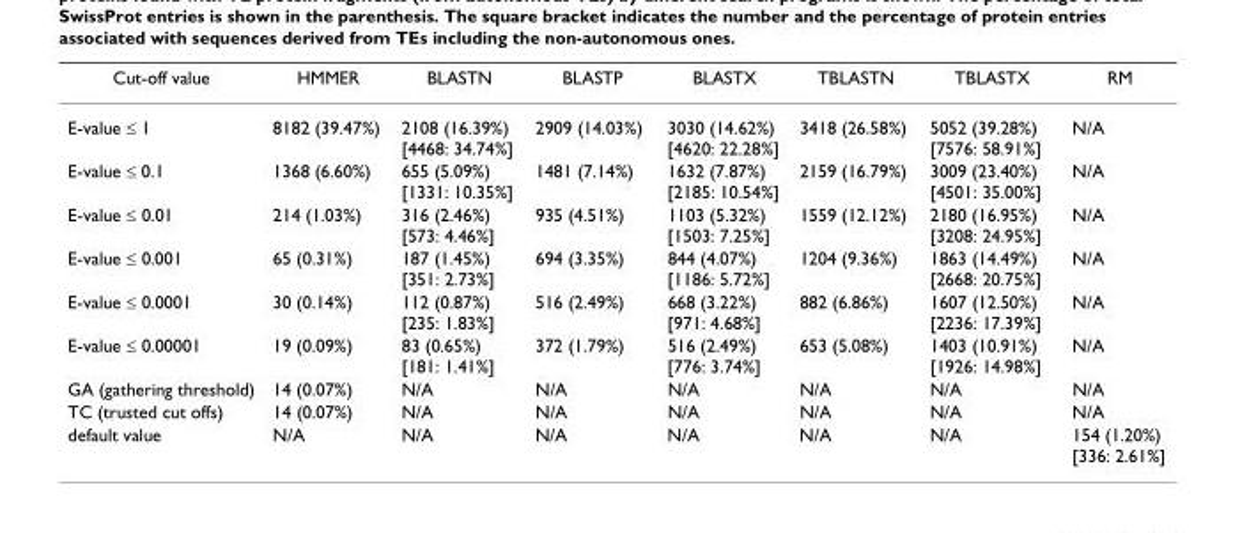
<table><thead><tr><td>Cut-off value</td><td>HMMER</td><td>BLASTN</td><td>BLASTP</td><td>BLASTX</td><td>TBLASTN</td><td>TBLASTX</td><td>RM</td></tr></thead><tbody><tr><td>E-value ≤ 1</td><td>8182 (39.47%)</td><td>2108 (16.39%) [4468: 34.74%]</td><td>2909 (14.03%)</td><td>3030 (14.62%) [4620: 22.28%]</td><td>3418 (26.58%)</td><td>5052 (39.28%) [7576: 58.91%]</td><td>N/A</td></tr><tr><td>E-value ≤ 0.1</td><td>1368 (6.60%)</td><td>655 (5.09%) [1331: 10.35%]</td><td>1481 (7.14%)</td><td>1632 (7.87%) [2185: 10.54%]</td><td>2159 (16.79%)</td><td>3009 (23.40%) [4501: 35.00%]</td><td>N/A</td></tr><tr><td>E-value ≤ 0.01</td><td>214 (1.03%)</td><td>316 (2.46%) [573: 4.46%]</td><td>935 (4.51%)</td><td>1103 (5.32%) [1503: 7.25%]</td><td>1559 (12.12%)</td><td>2180 (16.95%) [3208: 24.95%]</td><td>N/A</td></tr><tr><td>E-value ≤ 0.001</td><td>65 (0.31%)</td><td>187 (1.45%) [351: 2.73%]</td><td>694 (3.35%)</td><td>844 (4.07%) [1186: 5.72%]</td><td>1204 (9.36%)</td><td>1863 (14.49%) [2668: 20.75%]</td><td>N/A</td></tr><tr><td>E-value ≤ 0.0001</td><td>30 (0.14%)</td><td>112 (0.87%) [235: 1.83%]</td><td>516 (2.49%)</td><td>668 (3.22%) [971: 4.68%]</td><td>882 (6.86%)</td><td>1607 (12.50%) [2236: 17.39%]</td><td>N/A</td></tr><tr><td>E-value ≤ 0.00001</td><td>19 (0.09%)</td><td>83 (0.65%) [181: 1.41%]</td><td>372 (1.79%)</td><td>516 (2.49%) [776: 3.74%]</td><td>653 (5.08%)</td><td>1403 (10.91%) [1926: 14.98%]</td><td>N/A</td></tr><tr><td>GA (gathering threshold)</td><td>14 (0.07%)</td><td>N/A</td><td>N/A</td><td>N/A</td><td>N/A</td><td>N/A</td><td>N/A</td></tr><tr><td>TC (trusted cut offs)</td><td>14 (0.07%)</td><td>N/A</td><td>N/A</td><td>N/A</td><td>N/A</td><td>N/A</td><td>N/A</td></tr><tr><td>default value</td><td>N/A</td><td>N/A</td><td>N/A</td><td>N/A</td><td>N/A</td><td>N/A</td><td>154 (1.20%) [336: 2.61%]</td></tr></tbody></table>